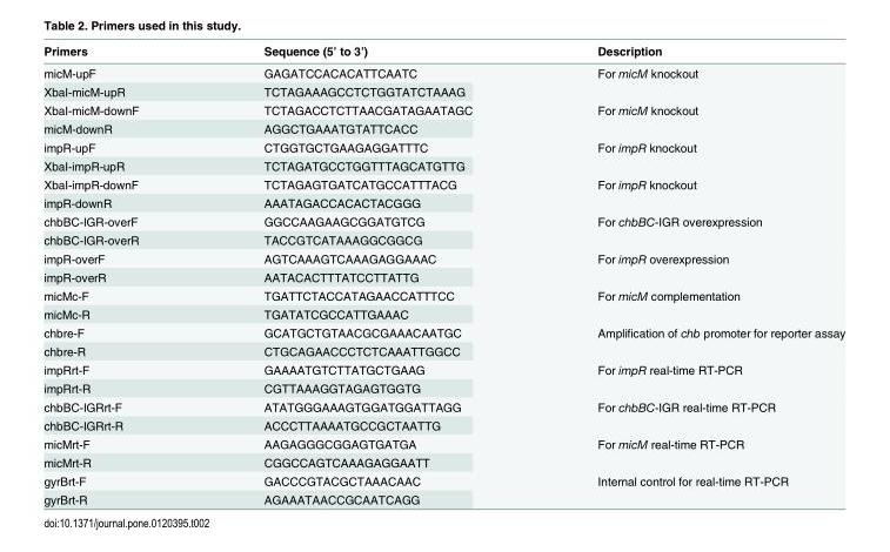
<table><thead><tr><td>Primers</td><td>Sequence (5’ to 3’)</td><td>Description</td></tr></thead><tbody><tr><td>micM-upF</td><td>GAGATCCACACATTCAATC</td><td rowspan="2">For micM knockout</td></tr><tr><td>XbaI-micM-upR</td><td>TCTAGAAAGCCTCTGGTATCTAAAG</td></tr><tr><td>XbaI-micM-downF</td><td>TCTAGACCTCTTAACGATAGAATAGC</td><td rowspan="2">For micM knockout</td></tr><tr><td>micM-downR</td><td>AGGCTGAAATGTATTCACC</td></tr><tr><td>impR-upF</td><td>CTGGTGCTGAAGAGGATTTC</td><td rowspan="2">For impR knockout</td></tr><tr><td>XbaI-impR-upR</td><td>TCTAGATGCCTGGTTTAGCATGTTG</td></tr><tr><td>XbaI-impR-downF</td><td>TCTAGAGTGATCATGCCATTTACG</td><td rowspan="2">For impR knockout</td></tr><tr><td>impR-downR</td><td>AAATAGACCACACTACGGG</td></tr><tr><td>chbBC-IGR-overF</td><td>GGCCAAGAAGCGGATGTCG</td><td rowspan="2">For chbBC-IGR overexpression</td></tr><tr><td>chbBC-IGR-overR</td><td>TACCGTCATAAAGGCGGCG</td></tr><tr><td>impR-overF</td><td>AGTCAAAGTCAAAGAGGAAAC</td><td rowspan="2">For impR overexpression</td></tr><tr><td>impR-overR</td><td>AATACACTTTATCCTTATTG</td></tr><tr><td>micMc-F</td><td>TGATTCTACCATAGAACCATTTCC</td><td rowspan="2">For micM complementation</td></tr><tr><td>micMc-R</td><td>TGATATCGCCATTGAAAC</td></tr><tr><td>chbre-F</td><td>GCATGCTGTAACGCGAAACAATGC</td><td rowspan="2">Amplification of chb promoter for reporter assay</td></tr><tr><td>chbre-R</td><td>CTGCAGAACCCTCTCAAATTGGCC</td></tr><tr><td>impRrt-F</td><td>GAAAATGTCTTATGCTGAAG</td><td rowspan="2">For impR real-time RT-PCR</td></tr><tr><td>impRrt-R</td><td>CGTTAAAGGTAGAGTGGTG</td></tr><tr><td>chbBC-IGRrt-F</td><td>ATATGGGAAAGTGGATGGATTAGG</td><td rowspan="2">For chbBC-IGR real-time RT-PCR</td></tr><tr><td>chbBC-IGRrt-R</td><td>ACCCTTAAAATGCCGCTAATTG</td></tr><tr><td>micMrt-F</td><td>AAGAGGGCGGAGTGATGA</td><td rowspan="2">For micM real-time RT-PCR</td></tr><tr><td>micMrt-R</td><td>CGGCCAGTCAAAGAGGAATT</td></tr><tr><td>gyrBrt-F</td><td>GACCCGTACGCTAAACAAC</td><td rowspan="2">Internal control for real-time RT-PCR</td></tr><tr><td>gyrBrt-R</td><td>AGAAATAACCGCAATCAGG</td></tr></tbody></table>